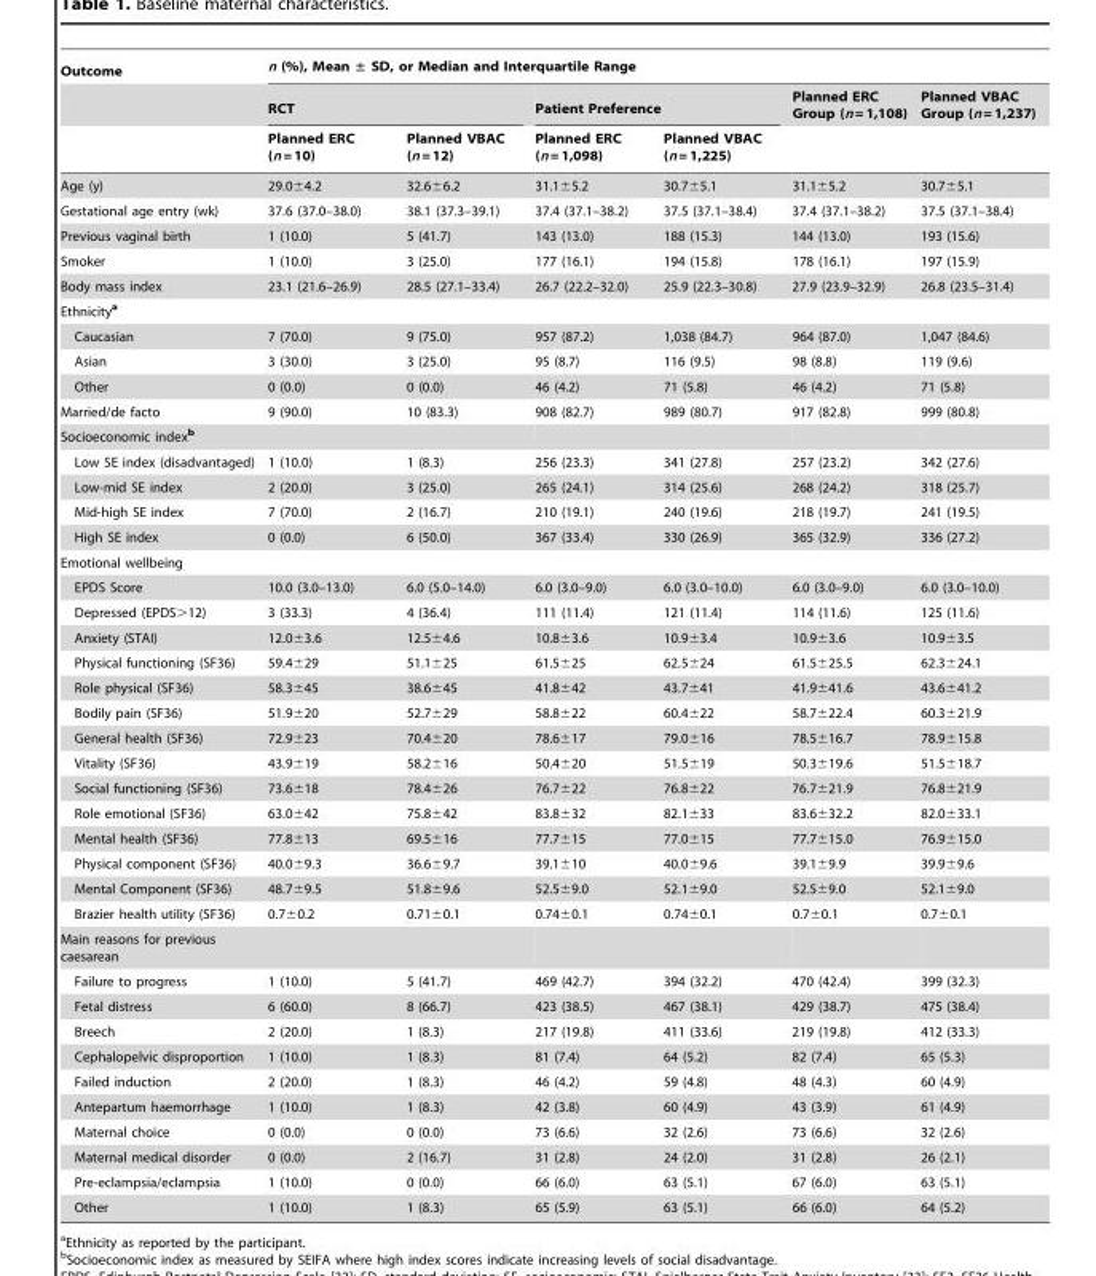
<table><thead><tr><td rowspan="3">Outcome</td><td colspan="6">n (%), Mean ± SD, or Median and Interquartile Range</td></tr><tr><td colspan="2">RCT</td><td colspan="2">Patient Preference</td><td rowspan="2">Planned ERC Group (n = 1,108)</td><td rowspan="2">Planned VBAC Group (n = 1,237)</td></tr><tr><td>Planned ERC (n = 10)</td><td>Planned VBAC (n = 12)</td><td>Planned ERC (n = 1,098)</td><td>Planned VBAC (n = 1,225)</td></tr></thead><tbody><tr><td>Age (y)</td><td>29.0±4.2</td><td>32.6±6.2</td><td>31.1±5.2</td><td>30.7±5.1</td><td>31.1±5.2</td><td>30.7±5.1</td></tr><tr><td>Gestational age entry (wk)</td><td>37.6 (37.0–38.0)</td><td>38.1 (37.3–39.1)</td><td>37.4 (37.1–38.2)</td><td>37.5 (37.1–38.4)</td><td>37.4 (37.1–38.2)</td><td>37.5 (37.1–38.4)</td></tr><tr><td>Previous vaginal birth</td><td>1 (10.0)</td><td>5 (41.7)</td><td>143 (13.0)</td><td>188 (15.3)</td><td>144 (13.0)</td><td>193 (15.6)</td></tr><tr><td>Smoker</td><td>1 (10.0)</td><td>3 (25.0)</td><td>177 (16.1)</td><td>194 (15.8)</td><td>178 (16.1)</td><td>197 (15.9)</td></tr><tr><td>Body mass index</td><td>23.1 (21.6–26.9)</td><td>28.5 (27.1–33.4)</td><td>26.7 (22.2–32.0)</td><td>25.9 (22.3–30.8)</td><td>27.9 (23.9–32.9)</td><td>26.8 (23.5–31.4)</td></tr><tr><td colspan="7">Ethnicity<sup>a</sup></td></tr><tr><td>Caucasian</td><td>7 (70.0)</td><td>9 (75.0)</td><td>957 (87.2)</td><td>1,038 (84.7)</td><td>964 (87.0)</td><td>1,047 (84.6)</td></tr><tr><td>Asian</td><td>3 (30.0)</td><td>3 (25.0)</td><td>95 (8.7)</td><td>116 (9.5)</td><td>98 (8.8)</td><td>119 (9.6)</td></tr><tr><td>Other</td><td>0 (0.0)</td><td>0 (0.0)</td><td>46 (4.2)</td><td>71 (5.8)</td><td>46 (4.2)</td><td>71 (5.8)</td></tr><tr><td>Married/de facto</td><td>9 (90.0)</td><td>10 (83.3)</td><td>908 (82.7)</td><td>989 (80.7)</td><td>917 (82.8)</td><td>999 (80.8)</td></tr><tr><td colspan="7">Socioeconomic index<sup>b</sup></td></tr><tr><td>Low SE index (disadvantaged)</td><td>1 (10.0)</td><td>1 (8.3)</td><td>256 (23.3)</td><td>341 (27.8)</td><td>257 (23.2)</td><td>342 (27.6)</td></tr><tr><td>Low-mid SE index</td><td>2 (20.0)</td><td>3 (25.0)</td><td>265 (24.1)</td><td>314 (25.6)</td><td>268 (24.2)</td><td>318 (25.7)</td></tr><tr><td>Mid-high SE index</td><td>7 (70.0)</td><td>2 (16.7)</td><td>210 (19.1)</td><td>240 (19.6)</td><td>218 (19.7)</td><td>241 (19.5)</td></tr><tr><td>High SE index</td><td>0 (0.0)</td><td>6 (50.0)</td><td>367 (33.4)</td><td>330 (26.9)</td><td>365 (32.9)</td><td>336 (27.2)</td></tr><tr><td colspan="7">Emotional wellbeing</td></tr><tr><td>EPDS Score</td><td>10.0 (3.0–13.0)</td><td>6.0 (5.0–14.0)</td><td>6.0 (3.0–9.0)</td><td>6.0 (3.0–10.0)</td><td>6.0 (3.0–9.0)</td><td>6.0 (3.0–10.0)</td></tr><tr><td>Depressed (EPDS&gt;12)</td><td>3 (33.3)</td><td>4 (36.4)</td><td>111 (11.4)</td><td>121 (11.4)</td><td>114 (11.6)</td><td>125 (11.6)</td></tr><tr><td>Anxiety (STAI)</td><td>12.0±3.6</td><td>12.5±4.6</td><td>10.8±3.6</td><td>10.9±3.4</td><td>10.9±3.6</td><td>10.9±3.5</td></tr><tr><td>Physical functioning (SF36)</td><td>59.4±29</td><td>51.1±25</td><td>61.5±25</td><td>62.5±24</td><td>61.5±25.5</td><td>62.3±24.1</td></tr><tr><td>Role physical (SF36)</td><td>58.3±45</td><td>38.6±45</td><td>41.8±42</td><td>43.7±41</td><td>41.9±41.6</td><td>43.6±41.2</td></tr><tr><td>Bodily pain (SF36)</td><td>51.9±20</td><td>52.7±29</td><td>58.8±22</td><td>60.4±22</td><td>58.7±22.4</td><td>60.3±21.9</td></tr><tr><td>General health (SF36)</td><td>72.9±23</td><td>70.4±20</td><td>78.6±17</td><td>79.0±16</td><td>78.5±16.7</td><td>78.9±15.8</td></tr><tr><td>Vitality (SF36)</td><td>43.9±19</td><td>58.2±16</td><td>50.4±20</td><td>51.5±19</td><td>50.3±19.6</td><td>51.5±18.7</td></tr><tr><td>Social functioning (SF36)</td><td>73.6±18</td><td>78.4±26</td><td>76.7±22</td><td>76.8±22</td><td>76.7±21.9</td><td>76.8±21.9</td></tr><tr><td>Role emotional (SF36)</td><td>63.0±42</td><td>75.8±42</td><td>83.8±32</td><td>82.1±33</td><td>83.6±32.2</td><td>82.0±33.1</td></tr><tr><td>Mental health (SF36)</td><td>77.8±13</td><td>69.5±16</td><td>77.7±15</td><td>77.0±15</td><td>77.7±15.0</td><td>76.9±15.0</td></tr><tr><td>Physical component (SF36)</td><td>40.0±9.3</td><td>36.6±9.7</td><td>39.1±10</td><td>40.0±9.6</td><td>39.1±9.9</td><td>39.9±9.6</td></tr><tr><td>Mental Component (SF36)</td><td>48.7±9.5</td><td>51.8±9.6</td><td>52.5±9.0</td><td>52.1±9.0</td><td>52.5±9.0</td><td>52.1±9.0</td></tr><tr><td>Brazier health utility (SF36)</td><td>0.7±0.2</td><td>0.71±0.1</td><td>0.74±0.1</td><td>0.74±0.1</td><td>0.7±0.1</td><td>0.7±0.1</td></tr><tr><td colspan="7">Main reasons for previous caesarean</td></tr><tr><td>Failure to progress</td><td>1 (10.0)</td><td>5 (41.7)</td><td>469 (42.7)</td><td>394 (32.2)</td><td>470 (42.4)</td><td>399 (32.3)</td></tr><tr><td>Fetal distress</td><td>6 (60.0)</td><td>8 (66.7)</td><td>423 (38.5)</td><td>467 (38.1)</td><td>429 (38.7)</td><td>475 (38.4)</td></tr><tr><td>Breech</td><td>2 (20.0)</td><td>1 (8.3)</td><td>217 (19.8)</td><td>411 (33.6)</td><td>219 (19.8)</td><td>412 (33.3)</td></tr><tr><td>Cephalopelvic disproportion</td><td>1 (10.0)</td><td>1 (8.3)</td><td>81 (7.4)</td><td>64 (5.2)</td><td>82 (7.4)</td><td>65 (5.3)</td></tr><tr><td>Failed induction</td><td>2 (20.0)</td><td>1 (8.3)</td><td>46 (4.2)</td><td>59 (4.8)</td><td>48 (4.3)</td><td>60 (4.9)</td></tr><tr><td>Antepartum haemorrhage</td><td>1 (10.0)</td><td>1 (8.3)</td><td>42 (3.8)</td><td>60 (4.9)</td><td>43 (3.9)</td><td>61 (4.9)</td></tr><tr><td>Maternal choice</td><td>0 (0.0)</td><td>0 (0.0)</td><td>73 (6.6)</td><td>32 (2.6)</td><td>73 (6.6)</td><td>32 (2.6)</td></tr><tr><td>Maternal medical disorder</td><td>0 (0.0)</td><td>2 (16.7)</td><td>31 (2.8)</td><td>24 (2.0)</td><td>31 (2.8)</td><td>26 (2.1)</td></tr><tr><td>Pre-eclampsia/eclampsia</td><td>1 (10.0)</td><td>0 (0.0)</td><td>66 (6.0)</td><td>63 (5.1)</td><td>67 (6.0)</td><td>63 (5.1)</td></tr><tr><td>Other</td><td>1 (10.0)</td><td>1 (8.3)</td><td>65 (5.9)</td><td>63 (5.1)</td><td>66 (6.0)</td><td>64 (5.2)</td></tr></tbody></table>